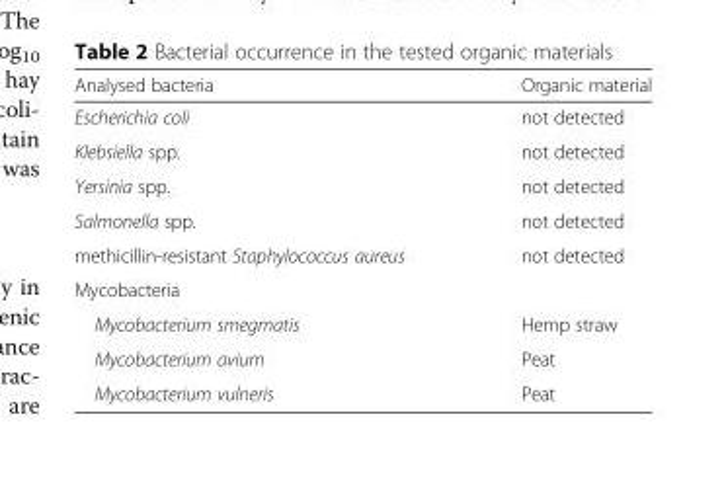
<table><thead><tr><td>Analysed bacteria</td><td>Organic material</td></tr></thead><tbody><tr><td>Escherichia coli</td><td>not detected</td></tr><tr><td>Klebsiella spp.</td><td>not detected</td></tr><tr><td>Yersinia spp.</td><td>not detected</td></tr><tr><td>Salmonella spp.</td><td>not detected</td></tr><tr><td>methicillin-resistant Staphylococcus aureus</td><td>not detected</td></tr><tr><td colspan="2">Mycobacteria</td></tr><tr><td>Mycobacterium smegmatis</td><td>Hemp straw</td></tr><tr><td>Mycobacterium avium</td><td>Peat</td></tr><tr><td>Mycobacterium vulneris</td><td>Peat</td></tr></tbody></table>